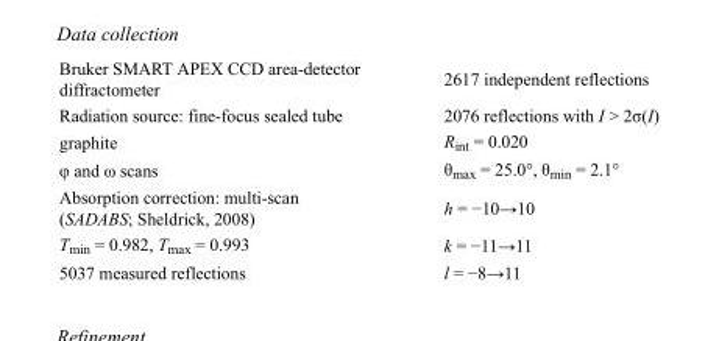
<table><tbody><tr><td>Bruker SMART APEX CCD area-detector diffractometer</td><td>2617 independent reflections</td></tr><tr><td>Radiation source: fine-focus sealed tube</td><td>2076 reflections with I &gt; 2σ(I)</td></tr><tr><td>graphite</td><td>R<sub>int</sub> = 0.020</td></tr><tr><td>φ and ω scans</td><td>θ<sub>max</sub> = 25.0°, θ<sub>min</sub> = 2.1°</td></tr><tr><td>Absorption correction: multi-scan (SADABS; Sheldrick, 2008)</td><td>h = −10→10</td></tr><tr><td>T<sub>min</sub> = 0.982, T<sub>max</sub> = 0.993</td><td>k = −11→11</td></tr><tr><td>5037 measured reflections</td><td>l = −8→11</td></tr></tbody></table>